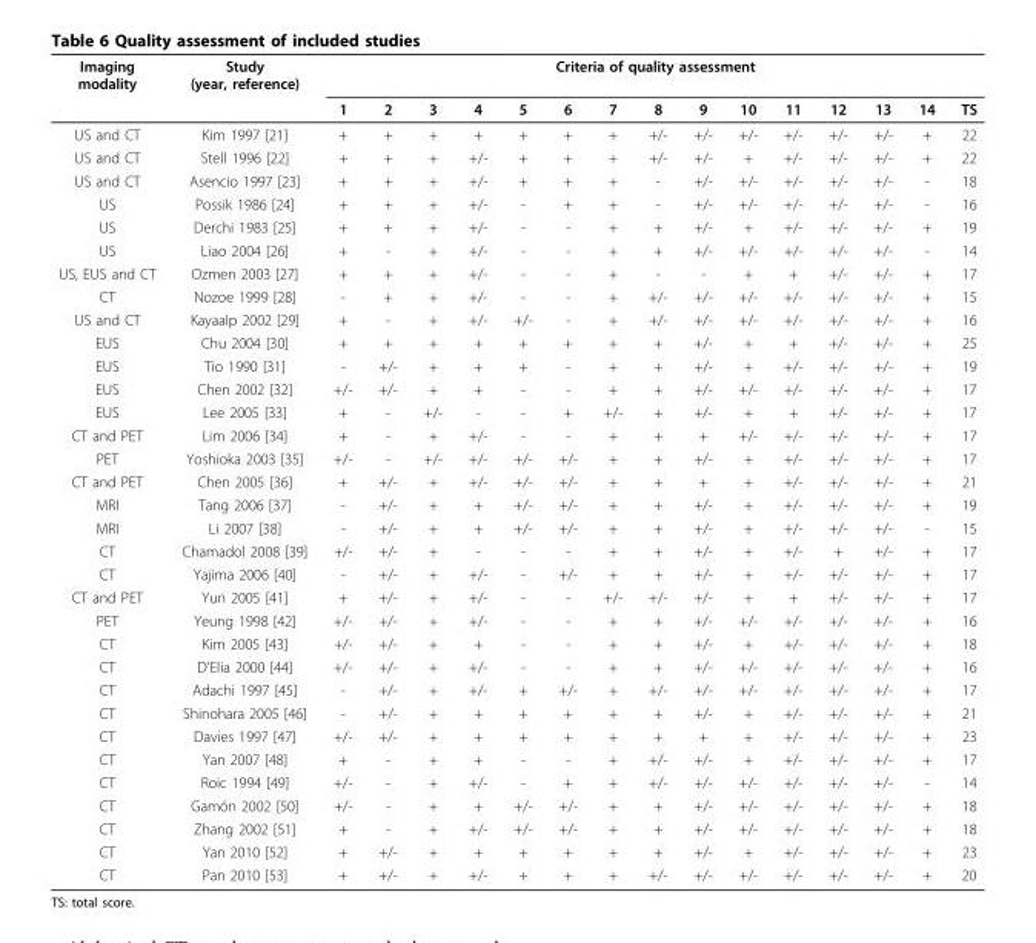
<table><thead><tr><td rowspan="2">Imaging modality</td><td rowspan="2">Study (year, reference)</td><td colspan="15">Criteria of quality assessment</td></tr><tr><td>1</td><td>2</td><td>3</td><td>4</td><td>5</td><td>6</td><td>7</td><td>8</td><td>9</td><td>10</td><td>11</td><td>12</td><td>13</td><td>14</td><td>TS</td></tr></thead><tbody><tr><td>US and CT</td><td>Kim 1997 [21]</td><td>+</td><td>+</td><td>+</td><td>+</td><td>+</td><td>+</td><td>+</td><td>+/-</td><td>+/-</td><td>+/-</td><td>+/-</td><td>+/-</td><td>+/-</td><td>+</td><td>22</td></tr><tr><td>US and CT</td><td>Stell 1996 [22]</td><td>+</td><td>+</td><td>+</td><td>+/-</td><td>+</td><td>+</td><td>+</td><td>+/-</td><td>+/-</td><td>+</td><td>+/-</td><td>+/-</td><td>+/-</td><td>+</td><td>22</td></tr><tr><td>US and CT</td><td>Asencio 1997 [23]</td><td>+</td><td>+</td><td>+</td><td>+/-</td><td>+</td><td>+</td><td>+</td><td>-</td><td>+/-</td><td>+/-</td><td>+/-</td><td>+/-</td><td>+/-</td><td>-</td><td>18</td></tr><tr><td>US</td><td>Possik 1986 [24]</td><td>+</td><td>+</td><td>+</td><td>+/-</td><td>-</td><td>+</td><td>+</td><td>-</td><td>+/-</td><td>+/-</td><td>+/-</td><td>+/-</td><td>+/-</td><td>-</td><td>16</td></tr><tr><td>US</td><td>Derchi 1983 [25]</td><td>+</td><td>+</td><td>+</td><td>+/-</td><td>-</td><td>-</td><td>+</td><td>+</td><td>+/-</td><td>+</td><td>+/-</td><td>+/-</td><td>+/-</td><td>+</td><td>19</td></tr><tr><td>US</td><td>Liao 2004 [26]</td><td>+</td><td>-</td><td>+</td><td>+/-</td><td>-</td><td>-</td><td>+</td><td>+</td><td>+/-</td><td>+/-</td><td>+/-</td><td>+/-</td><td>+/-</td><td>-</td><td>14</td></tr><tr><td>US, EUS and CT</td><td>Ozmen 2003 [27]</td><td>+</td><td>+</td><td>+</td><td>+/-</td><td>-</td><td>-</td><td>+</td><td>-</td><td>-</td><td>+</td><td>+</td><td>+/-</td><td>+/-</td><td>+</td><td>17</td></tr><tr><td>CT</td><td>Nozoe 1999 [28]</td><td>-</td><td>+</td><td>+</td><td>+/-</td><td>-</td><td>-</td><td>+</td><td>+/-</td><td>+/-</td><td>+/-</td><td>+/-</td><td>+/-</td><td>+/-</td><td>+</td><td>15</td></tr><tr><td>US and CT</td><td>Kayaalp 2002 [29]</td><td>+</td><td>-</td><td>+</td><td>+/-</td><td>+/-</td><td>-</td><td>+</td><td>+/-</td><td>+/-</td><td>+/-</td><td>+/-</td><td>+/-</td><td>+/-</td><td>+</td><td>16</td></tr><tr><td>EUS</td><td>Chu 2004 [30]</td><td>+</td><td>+</td><td>+</td><td>+</td><td>+</td><td>+</td><td>+</td><td>+</td><td>+/-</td><td>+</td><td>+</td><td>+/-</td><td>+/-</td><td>+</td><td>25</td></tr><tr><td>EUS</td><td>Tio 1990 [31]</td><td>-</td><td>+/-</td><td>+</td><td>+</td><td>+</td><td>-</td><td>+</td><td>+</td><td>+/-</td><td>+</td><td>+/-</td><td>+/-</td><td>+/-</td><td>+</td><td>19</td></tr><tr><td>EUS</td><td>Chen 2002 [32]</td><td>+/-</td><td>+/-</td><td>+</td><td>+</td><td>-</td><td>-</td><td>+</td><td>+</td><td>+/-</td><td>+/-</td><td>+/-</td><td>+/-</td><td>+/-</td><td>+</td><td>17</td></tr><tr><td>EUS</td><td>Lee 2005 [33]</td><td>+</td><td>-</td><td>+/-</td><td>-</td><td>-</td><td>+</td><td>+/-</td><td>+</td><td>+/-</td><td>+</td><td>+</td><td>+/-</td><td>+/-</td><td>+</td><td>17</td></tr><tr><td>CT and PET</td><td>Lim 2006 [34]</td><td>+</td><td>-</td><td>+</td><td>+/-</td><td>-</td><td>-</td><td>+</td><td>+</td><td>+</td><td>+/-</td><td>+/-</td><td>+/-</td><td>+/-</td><td>+</td><td>17</td></tr><tr><td>PET</td><td>Yoshioka 2003 [35]</td><td>+/-</td><td>-</td><td>+/-</td><td>+/-</td><td>+/-</td><td>+/-</td><td>+</td><td>+</td><td>+/-</td><td>+</td><td>+/-</td><td>+/-</td><td>+/-</td><td>+</td><td>17</td></tr><tr><td>CT and PET</td><td>Chen 2005 [36]</td><td>+</td><td>+/-</td><td>+</td><td>+/-</td><td>+/-</td><td>+/-</td><td>+</td><td>+</td><td>+</td><td>+</td><td>+/-</td><td>+/-</td><td>+/-</td><td>+</td><td>21</td></tr><tr><td>MRI</td><td>Tang 2006 [37]</td><td>-</td><td>+/-</td><td>+</td><td>+</td><td>+/-</td><td>+/-</td><td>+</td><td>+</td><td>+/-</td><td>+</td><td>+/-</td><td>+/-</td><td>+/-</td><td>+</td><td>19</td></tr><tr><td>MRI</td><td>Li 2007 [38]</td><td>-</td><td>+/-</td><td>+</td><td>+</td><td>+/-</td><td>+/-</td><td>+</td><td>+</td><td>+/-</td><td>+</td><td>+/-</td><td>+/-</td><td>+/-</td><td>-</td><td>15</td></tr><tr><td>CT</td><td>Chamadol 2008 [39]</td><td>+/-</td><td>+/-</td><td>+</td><td>-</td><td>-</td><td>-</td><td>+</td><td>+</td><td>+/-</td><td>+</td><td>+/-</td><td>+</td><td>+/-</td><td>+</td><td>17</td></tr><tr><td>CT</td><td>Yajima 2006 [40]</td><td>-</td><td>+/-</td><td>+</td><td>+/-</td><td>-</td><td>+/-</td><td>+</td><td>+</td><td>+/-</td><td>+</td><td>+/-</td><td>+/-</td><td>+/-</td><td>+</td><td>17</td></tr><tr><td>CT and PET</td><td>Yun 2005 [41]</td><td>+</td><td>+/-</td><td>+</td><td>+/-</td><td>-</td><td>-</td><td>+/-</td><td>+/-</td><td>+/-</td><td>+</td><td>+</td><td>+/-</td><td>+/-</td><td>+</td><td>17</td></tr><tr><td>PET</td><td>Yeung 1998 [42]</td><td>+/-</td><td>+/-</td><td>+</td><td>+/-</td><td>-</td><td>-</td><td>+</td><td>+</td><td>+/-</td><td>+/-</td><td>+/-</td><td>+/-</td><td>+/-</td><td>+</td><td>16</td></tr><tr><td>CT</td><td>Kim 2005 [43]</td><td>+/-</td><td>+/-</td><td>+</td><td>+</td><td>-</td><td>-</td><td>+</td><td>+</td><td>+/-</td><td>+</td><td>+/-</td><td>+/-</td><td>+/-</td><td>+</td><td>18</td></tr><tr><td>CT</td><td>D’Elia 2000 [44]</td><td>+/-</td><td>+/-</td><td>+</td><td>+/-</td><td>-</td><td>-</td><td>+</td><td>+</td><td>+/-</td><td>+/-</td><td>+/-</td><td>+/-</td><td>+/-</td><td>+</td><td>16</td></tr><tr><td>CT</td><td>Adachi 1997 [45]</td><td>-</td><td>+/-</td><td>+</td><td>+/-</td><td>+</td><td>+/-</td><td>+</td><td>+/-</td><td>+/-</td><td>+/-</td><td>+/-</td><td>+/-</td><td>+/-</td><td>+</td><td>17</td></tr><tr><td>CT</td><td>Shinohara 2005 [46]</td><td>-</td><td>+/-</td><td>+</td><td>+</td><td>+</td><td>+</td><td>+</td><td>+</td><td>+/-</td><td>+</td><td>+/-</td><td>+/-</td><td>+/-</td><td>+</td><td>21</td></tr><tr><td>CT</td><td>Davies 1997 [47]</td><td>+/-</td><td>+/-</td><td>+</td><td>+</td><td>+</td><td>+</td><td>+</td><td>+</td><td>+</td><td>+</td><td>+/-</td><td>+/-</td><td>+/-</td><td>+</td><td>23</td></tr><tr><td>CT</td><td>Yan 2007 [48]</td><td>+</td><td>-</td><td>+</td><td>+</td><td>-</td><td>-</td><td>+</td><td>+/-</td><td>+/-</td><td>+</td><td>+/-</td><td>+/-</td><td>+/-</td><td>+</td><td>17</td></tr><tr><td>CT</td><td>Roic 1994 [49]</td><td>+/-</td><td>-</td><td>+</td><td>+/-</td><td>-</td><td>+</td><td>+</td><td>+/-</td><td>+/-</td><td>+/-</td><td>+/-</td><td>+/-</td><td>+/-</td><td>-</td><td>14</td></tr><tr><td>CT</td><td>Gamón 2002 [50]</td><td>+/-</td><td>-</td><td>+</td><td>+</td><td>+/-</td><td>+/-</td><td>+</td><td>+</td><td>+/-</td><td>+/-</td><td>+/-</td><td>+/-</td><td>+/-</td><td>+</td><td>18</td></tr><tr><td>CT</td><td>Zhang 2002 [51]</td><td>+</td><td>-</td><td>+</td><td>+/-</td><td>+/-</td><td>+/-</td><td>+</td><td>+</td><td>+/-</td><td>+/-</td><td>+/-</td><td>+/-</td><td>+/-</td><td>+</td><td>18</td></tr><tr><td>CT</td><td>Yan 2010 [52]</td><td>+</td><td>+/-</td><td>+</td><td>+</td><td>+</td><td>+</td><td>+</td><td>+</td><td>+/-</td><td>+</td><td>+/-</td><td>+/-</td><td>+/-</td><td>+</td><td>23</td></tr><tr><td>CT</td><td>Pan 2010 [53]</td><td>+</td><td>+/-</td><td>+</td><td>+/-</td><td>+</td><td>+</td><td>+</td><td>+/-</td><td>+/-</td><td>+/-</td><td>+/-</td><td>+/-</td><td>+/-</td><td>+</td><td>20</td></tr></tbody></table>